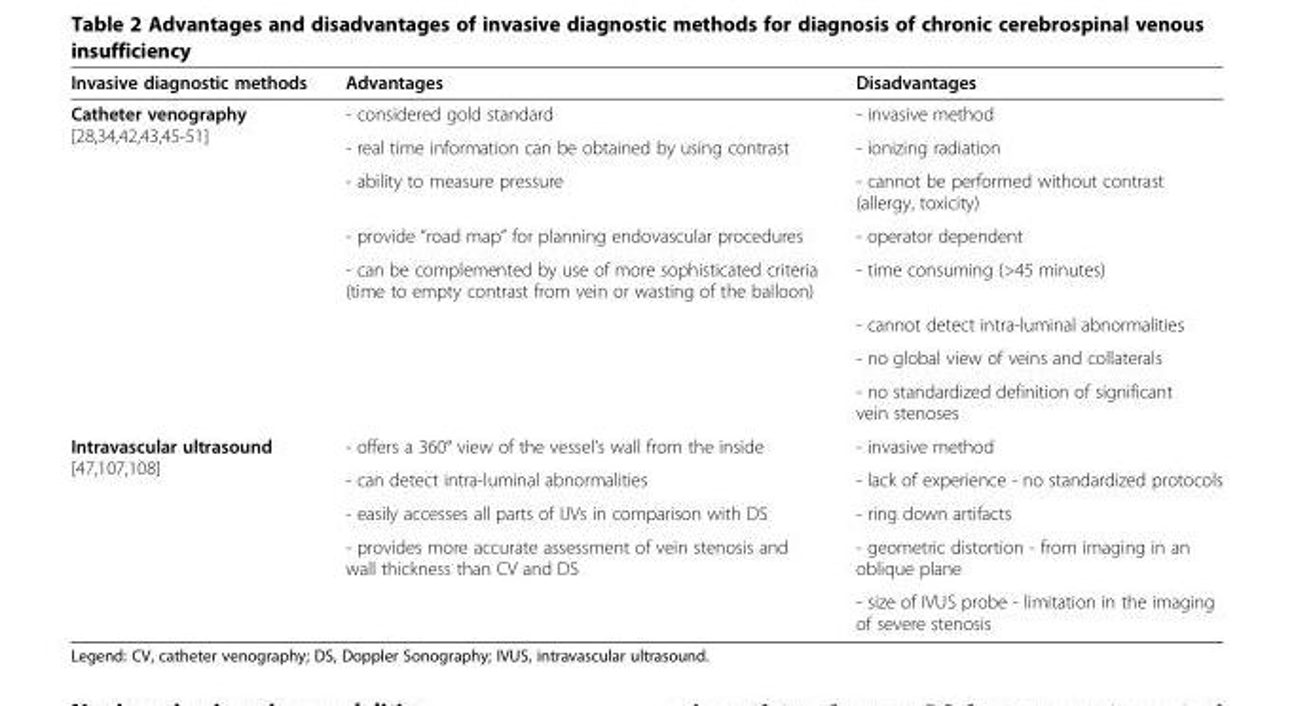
<table><thead><tr><td>Invasive diagnostic methods</td><td>Advantages</td><td>Disadvantages</td></tr></thead><tbody><tr><td rowspan="8">Catheter venography [28,34,42,43,45-51]</td><td>- considered gold standard</td><td>- invasive method</td></tr><tr><td>- real time information can be obtained by using contrast</td><td>- ionizing radiation</td></tr><tr><td>- ability to measure pressure</td><td>- cannot be performed without contrast (allergy, toxicity)</td></tr><tr><td>- provide “road map” for planning endovascular procedures</td><td>- operator dependent</td></tr><tr><td>- can be complemented by use of more sophisticated criteria (time to empty contrast from vein or wasting of the balloon)</td><td>- time consuming (&gt;45 minutes)</td></tr><tr><td rowspan="3"></td><td>- cannot detect intra-luminal abnormalities</td></tr><tr><td>- no global view of veins and collaterals</td></tr><tr><td>- no standardized definition of significant vein stenoses</td></tr><tr><td rowspan="5">Intravascular ultrasound [47,107,108]</td><td>- offers a 360° view of the vessel’s wall from the inside</td><td>- invasive method</td></tr><tr><td>- can detect intra-luminal abnormalities</td><td>- lack of experience - no standardized protocols</td></tr><tr><td>- easily accesses all parts of IJVs in comparison with DS</td><td>- ring down artifacts</td></tr><tr><td>- provides more accurate assessment of vein stenosis and wall thickness than CV and DS</td><td>- geometric distortion - from imaging in an oblique plane</td></tr><tr><td></td><td>- size of IVUS probe - limitation in the imaging of severe stenosis</td></tr></tbody></table>